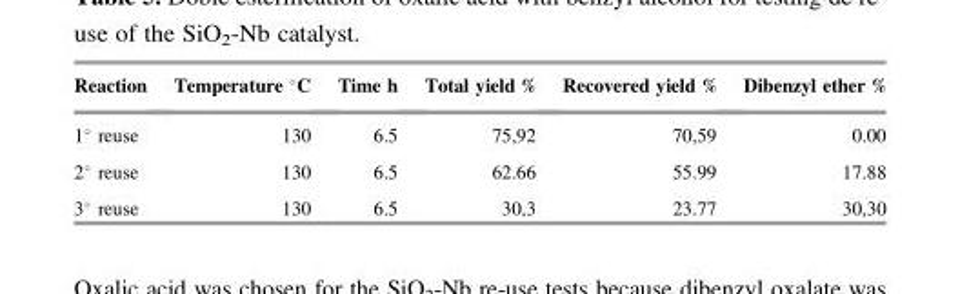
<table><thead><tr><td>Reaction</td><td>Temperature °C</td><td>Time h</td><td>Total yield %</td><td>Recovered yield %</td><td>Dibenzyl ether %</td></tr></thead><tbody><tr><td>1° reuse</td><td>130</td><td>6.5</td><td>75,92</td><td>70,59</td><td>0.00</td></tr><tr><td>2° reuse</td><td>130</td><td>6.5</td><td>62.66</td><td>55.99</td><td>17.88</td></tr><tr><td>3° reuse</td><td>130</td><td>6.5</td><td>30,3</td><td>23.77</td><td>30,30</td></tr></tbody></table>